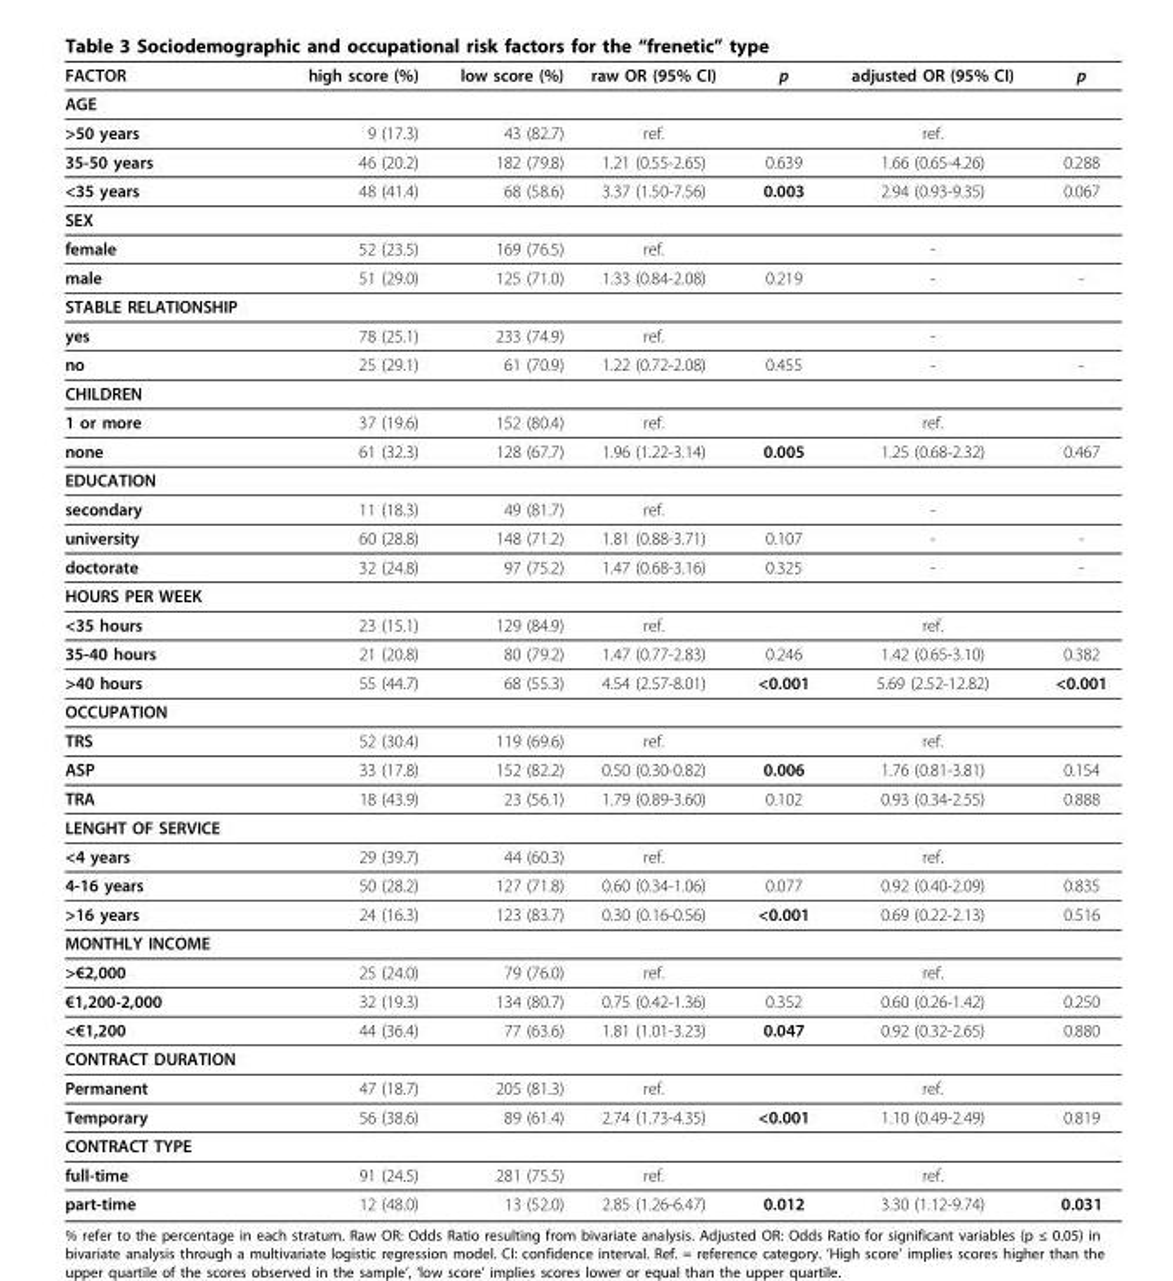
<table><thead><tr><td>FACTOR</td><td>high score (%)</td><td>low score (%)</td><td>raw OR (95% CI)</td><td>p</td><td>adjusted OR (95% CI)</td><td>p</td></tr></thead><tbody><tr><td colspan="7">AGE</td></tr><tr><td>&gt;50 years</td><td>9 (17.3)</td><td>43 (82.7)</td><td>ref.</td><td></td><td>ref.</td><td></td></tr><tr><td>35-50 years</td><td>46 (20.2)</td><td>182 (79.8)</td><td>1.21 (0.55-2.65)</td><td>0.639</td><td>1.66 (0.65-4.26)</td><td>0.288</td></tr><tr><td>&lt;35 years</td><td>48 (41.4)</td><td>68 (58.6)</td><td>3.37 (1.50-7.56)</td><td>0.003</td><td>2.94 (0.93-9.35)</td><td>0.067</td></tr><tr><td colspan="7">SEX</td></tr><tr><td>female</td><td>52 (23.5)</td><td>169 (76.5)</td><td>ref.</td><td></td><td>-</td><td></td></tr><tr><td>male</td><td>51 (29.0)</td><td>125 (71.0)</td><td>1.33 (0.84-2.08)</td><td>0.219</td><td>-</td><td>-</td></tr><tr><td colspan="7">STABLE RELATIONSHIP</td></tr><tr><td>yes</td><td>78 (25.1)</td><td>233 (74.9)</td><td>ref.</td><td></td><td>-</td><td></td></tr><tr><td>no</td><td>25 (29.1)</td><td>61 (70.9)</td><td>1.22 (0.72-2.08)</td><td>0.455</td><td>-</td><td>-</td></tr><tr><td colspan="7">CHILDREN</td></tr><tr><td>1 or more</td><td>37 (19.6)</td><td>152 (80.4)</td><td>ref.</td><td></td><td>ref.</td><td></td></tr><tr><td>none</td><td>61 (32.3)</td><td>128 (67.7)</td><td>1.96 (1.22-3.14)</td><td>0.005</td><td>1.25 (0.68-2.32)</td><td>0.467</td></tr><tr><td colspan="7">EDUCATION</td></tr><tr><td>secondary</td><td>11 (18.3)</td><td>49 (81.7)</td><td>ref.</td><td></td><td>-</td><td></td></tr><tr><td>university</td><td>60 (28.8)</td><td>148 (71.2)</td><td>1.81 (0.88-3.71)</td><td>0.107</td><td>-</td><td>-</td></tr><tr><td>doctorate</td><td>32 (24.8)</td><td>97 (75.2)</td><td>1.47 (0.68-3.16)</td><td>0.325</td><td>-</td><td>-</td></tr><tr><td colspan="7">HOURS PER WEEK</td></tr><tr><td>&lt;35 hours</td><td>23 (15.1)</td><td>129 (84.9)</td><td>ref.</td><td></td><td>ref.</td><td></td></tr><tr><td>35-40 hours</td><td>21 (20.8)</td><td>80 (79.2)</td><td>1.47 (0.77-2.83)</td><td>0.246</td><td>1.42 (0.65-3.10)</td><td>0.382</td></tr><tr><td>&gt;40 hours</td><td>55 (44.7)</td><td>68 (55.3)</td><td>4.54 (2.57-8.01)</td><td>&lt;0.001</td><td>5.69 (2.52-12.82)</td><td>&lt;0.001</td></tr><tr><td colspan="7">OCCUPATION</td></tr><tr><td>TRS</td><td>52 (30.4)</td><td>119 (69.6)</td><td>ref.</td><td></td><td>ref.</td><td></td></tr><tr><td>ASP</td><td>33 (17.8)</td><td>152 (82.2)</td><td>0.50 (0.30-0.82)</td><td>0.006</td><td>1.76 (0.81-3.81)</td><td>0.154</td></tr><tr><td>TRA</td><td>18 (43.9)</td><td>23 (56.1)</td><td>1.79 (0.89-3.60)</td><td>0.102</td><td>0.93 (0.34-2.55)</td><td>0.888</td></tr><tr><td colspan="7">LENGHT OF SERVICE</td></tr><tr><td>&lt;4 years</td><td>29 (39.7)</td><td>44 (60.3)</td><td>ref.</td><td></td><td>ref.</td><td></td></tr><tr><td>4-16 years</td><td>50 (28.2)</td><td>127 (71.8)</td><td>0.60 (0.34-1.06)</td><td>0.077</td><td>0.92 (0.40-2.09)</td><td>0.835</td></tr><tr><td>&gt;16 years</td><td>24 (16.3)</td><td>123 (83.7)</td><td>0.30 (0.16-0.56)</td><td>&lt;0.001</td><td>0.69 (0.22-2.13)</td><td>0.516</td></tr><tr><td colspan="7">MONTHLY INCOME</td></tr><tr><td>&gt;€2,000</td><td>25 (24.0)</td><td>79 (76.0)</td><td>ref.</td><td></td><td>ref.</td><td></td></tr><tr><td>€1,200-2,000</td><td>32 (19.3)</td><td>134 (80.7)</td><td>0.75 (0.42-1.36)</td><td>0.352</td><td>0.60 (0.26-1.42)</td><td>0.250</td></tr><tr><td>&lt;€1,200</td><td>44 (36.4)</td><td>77 (63.6)</td><td>1.81 (1.01-3.23)</td><td>0.047</td><td>0.92 (0.32-2.65)</td><td>0.880</td></tr><tr><td colspan="7">CONTRACT DURATION</td></tr><tr><td>Permanent</td><td>47 (18.7)</td><td>205 (81.3)</td><td>ref.</td><td></td><td>ref.</td><td></td></tr><tr><td>Temporary</td><td>56 (38.6)</td><td>89 (61.4)</td><td>2.74 (1.73-4.35)</td><td>&lt;0.001</td><td>1.10 (0.49-2.49)</td><td>0.819</td></tr><tr><td colspan="7">CONTRACT TYPE</td></tr><tr><td>full-time</td><td>91 (24.5)</td><td>281 (75.5)</td><td>ref.</td><td></td><td>ref.</td><td></td></tr><tr><td>part-time</td><td>12 (48.0)</td><td>13 (52.0)</td><td>2.85 (1.26-6.47)</td><td>0.012</td><td>3.30 (1.12-9.74)</td><td>0.031</td></tr></tbody></table>